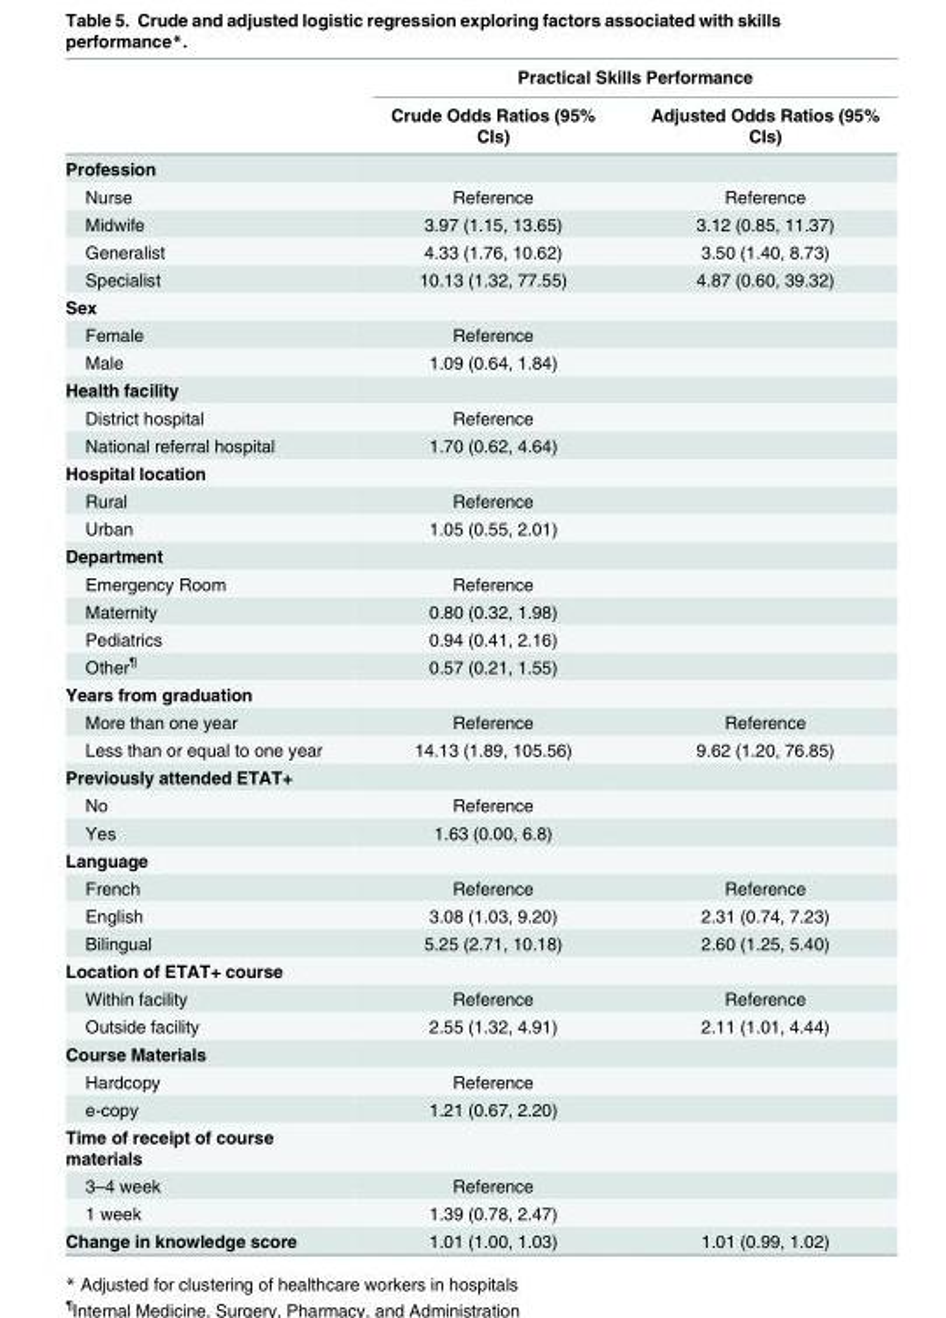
<table><thead><tr><td rowspan="2"></td><td colspan="2">Practical Skills Performance</td></tr><tr><td>Crude Odds Ratios (95% CIs)</td><td>Adjusted Odds Ratios (95% CIs)</td></tr></thead><tbody><tr><td colspan="3">Profession</td></tr><tr><td>Nurse</td><td>Reference</td><td>Reference</td></tr><tr><td>Midwife</td><td>3.97 (1.15, 13.65)</td><td>3.12 (0.85, 11.37)</td></tr><tr><td>Generalist</td><td>4.33 (1.76, 10.62)</td><td>3.50 (1.40, 8.73)</td></tr><tr><td>Specialist</td><td>10.13 (1.32, 77.55)</td><td>4.87 (0.60, 39.32)</td></tr><tr><td colspan="3">Sex</td></tr><tr><td>Female</td><td>Reference</td><td></td></tr><tr><td>Male</td><td>1.09 (0.64, 1.84)</td><td></td></tr><tr><td colspan="3">Health facility</td></tr><tr><td>District hospital</td><td>Reference</td><td></td></tr><tr><td>National referral hospital</td><td>1.70 (0.62, 4.64)</td><td></td></tr><tr><td colspan="3">Hospital location</td></tr><tr><td>Rural</td><td>Reference</td><td></td></tr><tr><td>Urban</td><td>1.05 (0.55, 2.01)</td><td></td></tr><tr><td colspan="3">Department</td></tr><tr><td>Emergency Room</td><td>Reference</td><td></td></tr><tr><td>Maternity</td><td>0.80 (0.32, 1.98)</td><td></td></tr><tr><td>Pediatrics</td><td>0.94 (0.41, 2.16)</td><td></td></tr><tr><td>Other<sup>¶</sup></td><td>0.57 (0.21, 1.55)</td><td></td></tr><tr><td colspan="3">Years from graduation</td></tr><tr><td>More than one year</td><td>Reference</td><td>Reference</td></tr><tr><td>Less than or equal to one year</td><td>14.13 (1.89, 105.56)</td><td>9.62 (1.20, 76.85)</td></tr><tr><td colspan="3">Previously attended ETAT+</td></tr><tr><td>No</td><td>Reference</td><td></td></tr><tr><td>Yes</td><td>1.63 (0.00, 6.8)</td><td></td></tr><tr><td colspan="3">Language</td></tr><tr><td>French</td><td>Reference</td><td>Reference</td></tr><tr><td>English</td><td>3.08 (1.03, 9.20)</td><td>2.31 (0.74, 7.23)</td></tr><tr><td>Bilingual</td><td>5.25 (2.71, 10.18)</td><td>2.60 (1.25, 5.40)</td></tr><tr><td colspan="3">Location of ETAT+ course</td></tr><tr><td>Within facility</td><td>Reference</td><td>Reference</td></tr><tr><td>Outside facility</td><td>2.55 (1.32, 4.91)</td><td>2.11 (1.01, 4.44)</td></tr><tr><td colspan="3">Course Materials</td></tr><tr><td>Hardcopy</td><td>Reference</td><td></td></tr><tr><td>e-copy</td><td>1.21 (0.67, 2.20)</td><td></td></tr><tr><td colspan="3">Time of receipt of course materials</td></tr><tr><td>3–4 week</td><td>Reference</td><td></td></tr><tr><td>1 week</td><td>1.39 (0.78, 2.47)</td><td></td></tr><tr><td>Change in knowledge score</td><td>1.01 (1.00, 1.03)</td><td>1.01 (0.99, 1.02)</td></tr></tbody></table>